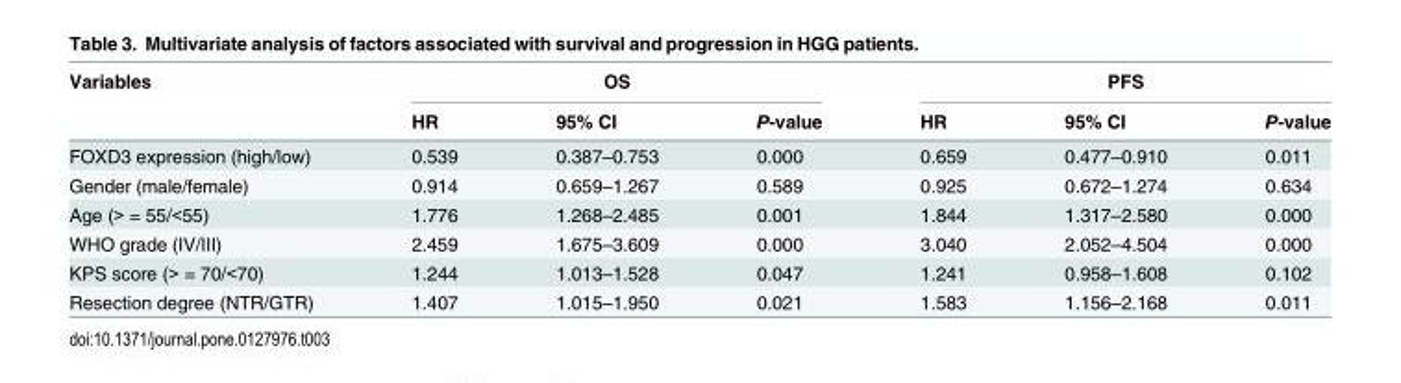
<table><thead><tr><td rowspan="2">Variables</td><td colspan="3">OS</td><td colspan="3">PFS</td></tr><tr><td>HR</td><td>95% CI</td><td>P-value</td><td>HR</td><td>95% CI</td><td>P-value</td></tr></thead><tbody><tr><td>FOXD3 expression (high/low)</td><td>0.539</td><td>0.387–0.753</td><td>0.000</td><td>0.659</td><td>0.477–0.910</td><td>0.011</td></tr><tr><td>Gender (male/female)</td><td>0.914</td><td>0.659–1.267</td><td>0.589</td><td>0.925</td><td>0.672–1.274</td><td>0.634</td></tr><tr><td>Age (&gt; = 55/&lt;55)</td><td>1.776</td><td>1.268–2.485</td><td>0.001</td><td>1.844</td><td>1.317–2.580</td><td>0.000</td></tr><tr><td>WHO grade (IV/III)</td><td>2.459</td><td>1.675–3.609</td><td>0.000</td><td>3.040</td><td>2.052–4.504</td><td>0.000</td></tr><tr><td>KPS score (&gt; = 70/&lt;70)</td><td>1.244</td><td>1.013–1.528</td><td>0.047</td><td>1.241</td><td>0.958–1.608</td><td>0.102</td></tr><tr><td>Resection degree (NTR/GTR)</td><td>1.407</td><td>1.015–1.950</td><td>0.021</td><td>1.583</td><td>1.156–2.168</td><td>0.011</td></tr></tbody></table>